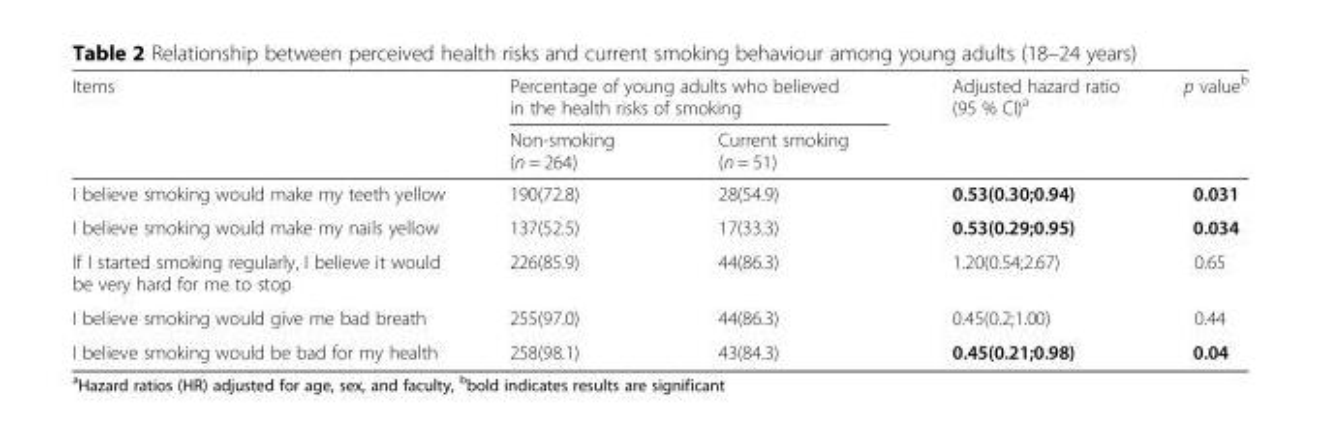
<table><thead><tr><td rowspan="2">Items</td><td colspan="2">Percentage of young adults who believed in the health risks of smoking</td><td rowspan="2">Adjusted hazard ratio (95 % CI)<sup>a</sup></td><td rowspan="2">p value<sup>b</sup></td></tr><tr><td>Non-smoking (n = 264)</td><td>Current smoking (n = 51)</td></tr></thead><tbody><tr><td>I believe smoking would make my teeth yellow</td><td>190(72.8)</td><td>28(54.9)</td><td>0.53(0.30;0.94)</td><td>0.031</td></tr><tr><td>I believe smoking would make my nails yellow</td><td>137(52.5)</td><td>17(33.3)</td><td>0.53(0.29;0.95)</td><td>0.034</td></tr><tr><td>If I started smoking regularly, I believe it would be very hard for me to stop</td><td>226(85.9)</td><td>44(86.3)</td><td>1.20(0.54;2.67)</td><td>0.65</td></tr><tr><td>I believe smoking would give me bad breath</td><td>255(97.0)</td><td>44(86.3)</td><td>0.45(0.2;1.00)</td><td>0.44</td></tr><tr><td>I believe smoking would be bad for my health</td><td>258(98.1)</td><td>43(84.3)</td><td>0.45(0.21;0.98)</td><td>0.04</td></tr></tbody></table>